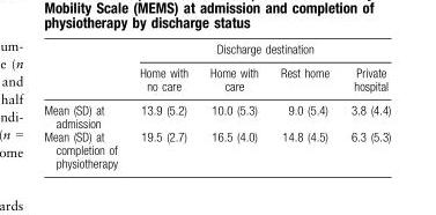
<table><thead><tr><td rowspan="2"></td><td colspan="4">Discharge destination</td></tr><tr><td>Home with no care</td><td>Home with care</td><td>Rest home</td><td>Private hospital</td></tr></thead><tbody><tr><td>Mean (SD) at admission</td><td>13.9 (5.2)</td><td>10.0 (5.3)</td><td>9.0 (5.4)</td><td>3.8 (4.4)</td></tr><tr><td>Mean (SD) at completion of physiotherapy</td><td>19.5 (2.7)</td><td>16.5 (4.0)</td><td>14.8 (4.5)</td><td>6.3 (5.3)</td></tr></tbody></table>